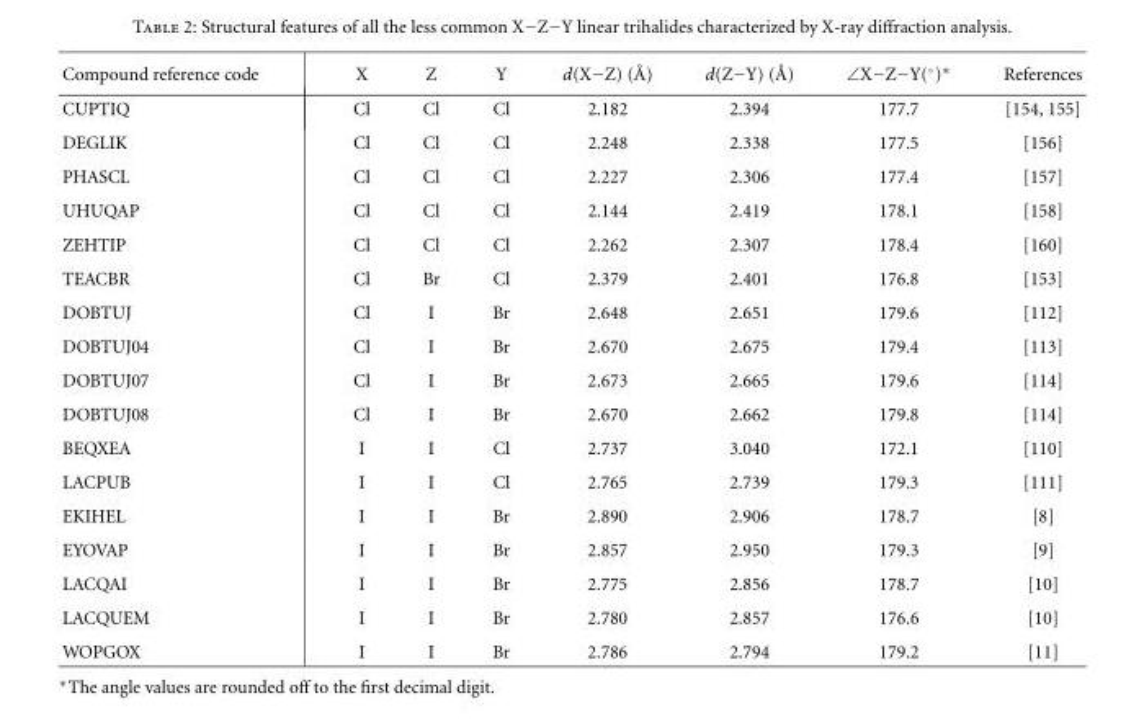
<table><thead><tr><td>Compound reference code</td><td>X</td><td>Z</td><td>Y</td><td>d(X−Z) ( ˚A)</td><td>d(Z−Y) ( ˚A)</td><td>∠X−Z−Y(◦)∗</td><td>References</td></tr></thead><tbody><tr><td>CUPTIQ</td><td>Cl</td><td>Cl</td><td>Cl</td><td>2.182</td><td>2.394</td><td>177.7</td><td>[154, 155]</td></tr><tr><td>DEGLIK</td><td>Cl</td><td>Cl</td><td>Cl</td><td>2.248</td><td>2.338</td><td>177.5</td><td>[156]</td></tr><tr><td>PHASCL</td><td>Cl</td><td>Cl</td><td>Cl</td><td>2.227</td><td>2.306</td><td>177.4</td><td>[157]</td></tr><tr><td>UHUQAP</td><td>Cl</td><td>Cl</td><td>Cl</td><td>2.144</td><td>2.419</td><td>178.1</td><td>[158]</td></tr><tr><td>ZEHTIP</td><td>Cl</td><td>Cl</td><td>Cl</td><td>2.262</td><td>2.307</td><td>178.4</td><td>[160]</td></tr><tr><td>TEACBR</td><td>Cl</td><td>Br</td><td>Cl</td><td>2.379</td><td>2.401</td><td>176.8</td><td>[153]</td></tr><tr><td>DOBTUJ</td><td>Cl</td><td>I</td><td>Br</td><td>2.648</td><td>2.651</td><td>179.6</td><td>[112]</td></tr><tr><td>DOBTUJ04</td><td>Cl</td><td>I</td><td>Br</td><td>2.670</td><td>2.675</td><td>179.4</td><td>[113]</td></tr><tr><td>DOBTUJ07</td><td>Cl</td><td>I</td><td>Br</td><td>2.673</td><td>2.665</td><td>179.6</td><td>[114]</td></tr><tr><td>DOBTUJ08</td><td>Cl</td><td>I</td><td>Br</td><td>2.670</td><td>2.662</td><td>179.8</td><td>[114]</td></tr><tr><td>BEQXEA</td><td>I</td><td>I</td><td>Cl</td><td>2.737</td><td>3.040</td><td>172.1</td><td>[110]</td></tr><tr><td>LACPUB</td><td>I</td><td>I</td><td>Cl</td><td>2.765</td><td>2.739</td><td>179.3</td><td>[111]</td></tr><tr><td>EKIHEL</td><td>I</td><td>I</td><td>Br</td><td>2.890</td><td>2.906</td><td>178.7</td><td>[8]</td></tr><tr><td>EYOVAP</td><td>I</td><td>I</td><td>Br</td><td>2.857</td><td>2.950</td><td>179.3</td><td>[9]</td></tr><tr><td>LACQAI</td><td>I</td><td>I</td><td>Br</td><td>2.775</td><td>2.856</td><td>178.7</td><td>[10]</td></tr><tr><td>LACQUEM</td><td>I</td><td>I</td><td>Br</td><td>2.780</td><td>2.857</td><td>176.6</td><td>[10]</td></tr><tr><td>WOPGOX</td><td>I</td><td>I</td><td>Br</td><td>2.786</td><td>2.794</td><td>179.2</td><td>[11]</td></tr></tbody></table>